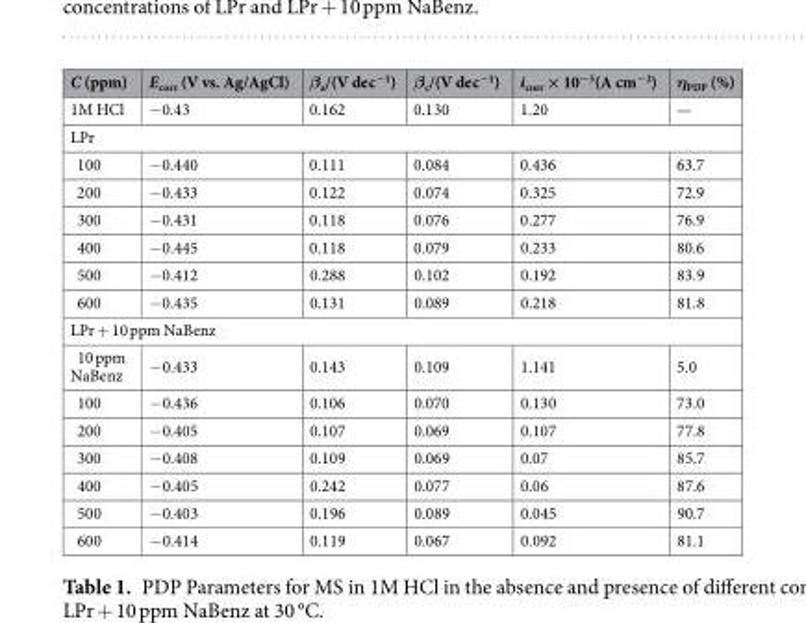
<table><thead><tr><td>C (ppm)</td><td>E<sub>corr</sub> (V vs. Ag/AgCl)</td><td>β<sub>a</sub>/(V dec<sup>−1</sup>)</td><td>β<sub>c</sub>/(V dec<sup>−1</sup>)</td><td>i<sub>corr</sub> × 10<sup>−3</sup>(A cm<sup>−2</sup>)</td><td>η<sub>PDP</sub> (%)</td></tr></thead><tbody><tr><td>1M HCl</td><td>−0.43</td><td>0.162</td><td>0.130</td><td>1.20</td><td>—</td></tr><tr><td colspan="6">LPr</td></tr><tr><td>100</td><td>−0.440</td><td>0.111</td><td>0.084</td><td>0.436</td><td>63.7</td></tr><tr><td>200</td><td>−0.433</td><td>0.122</td><td>0.074</td><td>0.325</td><td>72.9</td></tr><tr><td>300</td><td>−0.431</td><td>0.118</td><td>0.076</td><td>0.277</td><td>76.9</td></tr><tr><td>400</td><td>−0.445</td><td>0.118</td><td>0.079</td><td>0.233</td><td>80.6</td></tr><tr><td>500</td><td>−0.412</td><td>0.288</td><td>0.102</td><td>0.192</td><td>83.9</td></tr><tr><td>600</td><td>−0.435</td><td>0.131</td><td>0.089</td><td>0.218</td><td>81.8</td></tr><tr><td colspan="6">LPr + 10 ppm NaBenz</td></tr><tr><td>10 ppm NaBenz</td><td>−0.433</td><td>0.143</td><td>0.109</td><td>1.141</td><td>5.0</td></tr><tr><td>100</td><td>−0.436</td><td>0.106</td><td>0.070</td><td>0.130</td><td>73.0</td></tr><tr><td>200</td><td>−0.405</td><td>0.107</td><td>0.069</td><td>0.107</td><td>77.8</td></tr><tr><td>300</td><td>−0.408</td><td>0.109</td><td>0.069</td><td>0.07</td><td>85.7</td></tr><tr><td>400</td><td>−0.405</td><td>0.242</td><td>0.077</td><td>0.06</td><td>87.6</td></tr><tr><td>500</td><td>−0.403</td><td>0.196</td><td>0.089</td><td>0.045</td><td>90.7</td></tr><tr><td>600</td><td>−0.414</td><td>0.119</td><td>0.067</td><td>0.092</td><td>81.1</td></tr></tbody></table>